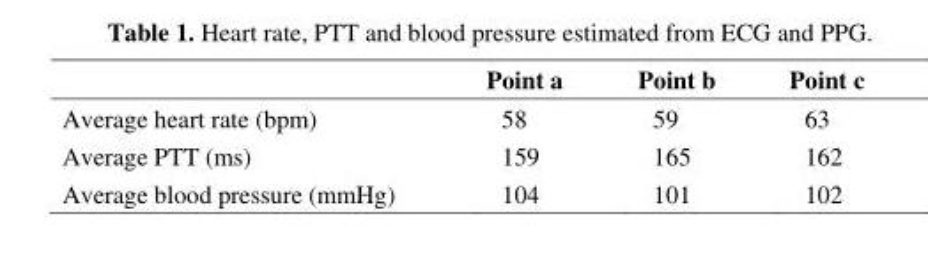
<table><thead><tr><td></td><td>Point a</td><td>Point b</td><td>Point c</td></tr></thead><tbody><tr><td>Average heart rate (bpm)</td><td>58</td><td>59</td><td>63</td></tr><tr><td>Average PTT (ms)</td><td>159</td><td>165</td><td>162</td></tr><tr><td>Average blood pressure (mmHg)</td><td>104</td><td>101</td><td>102</td></tr></tbody></table>